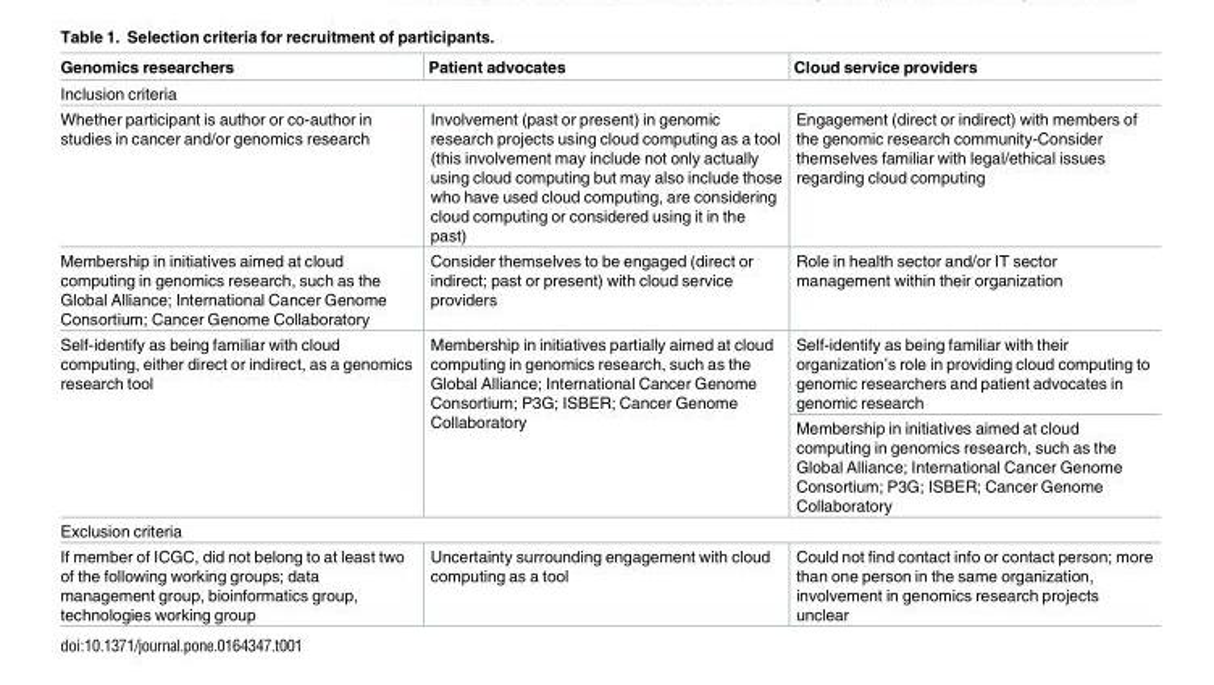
<table><thead><tr><td>Genomics researchers</td><td>Patient advocates</td><td>Cloud service providers</td></tr></thead><tbody><tr><td colspan="3">Inclusion criteria</td></tr><tr><td>Whether participant is author or co-author in studies in cancer and/or genomics research</td><td>Involvement (past or present) in genomic research projects using cloud computing as a tool (this involvement may include not only actually using cloud computing but may also include those who have used cloud computing, are considering cloud computing or considered using it in the past)</td><td>Engagement (direct or indirect) with members of the genomic research community-Consider themselves familiar with legal/ethical issues regarding cloud computing</td></tr><tr><td>Membership in initiatives aimed at cloud computing in genomics research, such as the Global Alliance; International Cancer Genome Consortium; Cancer Genome Collaboratory</td><td>Consider themselves to be engaged (direct or indirect; past or present) with cloud service providers</td><td>Role in health sector and/or IT sector management within their organization</td></tr><tr><td rowspan="2">Self-identify as being familiar with cloud computing, either direct or indirect, as a genomics research tool</td><td rowspan="2">Membership in initiatives partially aimed at cloud computing in genomics research, such as the Global Alliance; International Cancer Genome Consortium; P3G; ISBER; Cancer Genome Collaboratory</td><td>Self-identify as being familiar with their organization’s role in providing cloud computing to genomic researchers and patient advocates in genomic research</td></tr><tr><td>Membership in initiatives aimed at cloud computing in genomics research, such as the Global Alliance; International Cancer Genome Consortium; P3G; ISBER; Cancer Genome Collaboratory</td></tr><tr><td colspan="3">Exclusion criteria</td></tr><tr><td>If member of ICGC, did not belong to at least two of the following working groups; data management group, bioinformatics group, technologies working group</td><td>Uncertainty surrounding engagement with cloud computing as a tool</td><td>Could not find contact info or contact person; more than one person in the same organization, involvement in genomics research projects unclear</td></tr></tbody></table>